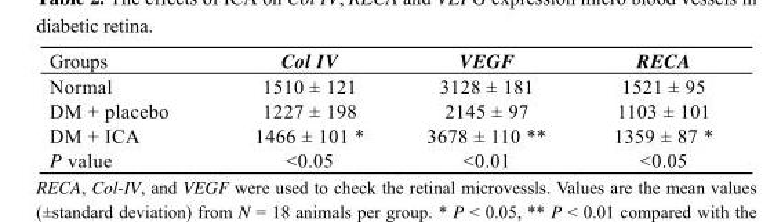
<table><thead><tr><td>Groups</td><td>Col IV</td><td>VEGF</td><td>RECA</td></tr></thead><tbody><tr><td>Normal</td><td>1510 ± 121</td><td>3128 ± 181</td><td>1521 ± 95</td></tr><tr><td>DM + placebo</td><td>1227 ± 198</td><td>2145 ± 97</td><td>1103 ± 101</td></tr><tr><td>DM + ICA</td><td>1466 ± 101 *</td><td>3678 ± 110 **</td><td>1359 ± 87 *</td></tr><tr><td>P value</td><td>&lt;0.05</td><td>&lt;0.01</td><td>&lt;0.05</td></tr></tbody></table>